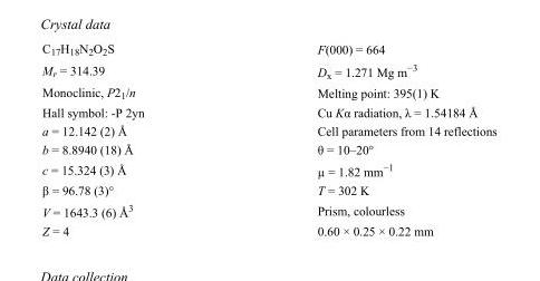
<table><tbody><tr><td>C<sub>17</sub>H<sub>18</sub>N<sub>2</sub>O<sub>2</sub>S</td><td>F(000) = 664</td></tr><tr><td>M<sub>r</sub> = 314.39</td><td>D<sub>x</sub> = 1.271 Mg m<sup>−3</sup></td></tr><tr><td>Monoclinic, P2<sub>1</sub>/n</td><td>Melting point: 395(1) K</td></tr><tr><td>Hall symbol: -P 2yn</td><td>Cu Kα radiation, λ = 1.54184 Å</td></tr><tr><td>a = 12.142 (2) Å</td><td>Cell parameters from 14 reflections</td></tr><tr><td>b = 8.8940 (18) Å</td><td>θ = 10–20°</td></tr><tr><td>c = 15.324 (3) Å</td><td>µ = 1.82 mm<sup>−1</sup></td></tr><tr><td>β = 96.78 (3)°</td><td>T = 302 K</td></tr><tr><td>V = 1643.3 (6) Å<sup>3</sup></td><td>Prism, colourless</td></tr><tr><td>Z = 4</td><td>0.60 × 0.25 × 0.22 mm</td></tr></tbody></table>